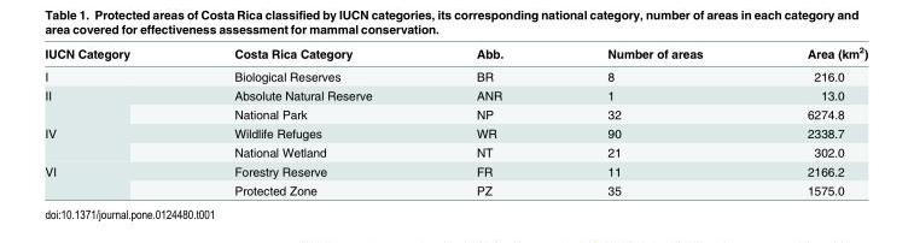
<table><thead><tr><td>IUCN Category</td><td>Costa Rica Category</td><td>Abb.</td><td>Number of areas</td><td>Area (km<sup>2</sup>)</td></tr></thead><tbody><tr><td>I</td><td>Biological Reserves</td><td>BR</td><td>8</td><td>216.0</td></tr><tr><td rowspan="2">II</td><td>Absolute Natural Reserve</td><td>ANR</td><td>1</td><td>13.0</td></tr><tr><td>National Park</td><td>NP</td><td>32</td><td>6274.8</td></tr><tr><td rowspan="2">IV</td><td>Wildlife Refuges</td><td>WR</td><td>90</td><td>2338.7</td></tr><tr><td>National Wetland</td><td>NT</td><td>21</td><td>302.0</td></tr><tr><td rowspan="2">VI</td><td>Forestry Reserve</td><td>FR</td><td>11</td><td>2166.2</td></tr><tr><td>Protected Zone</td><td>PZ</td><td>35</td><td>1575.0</td></tr></tbody></table>